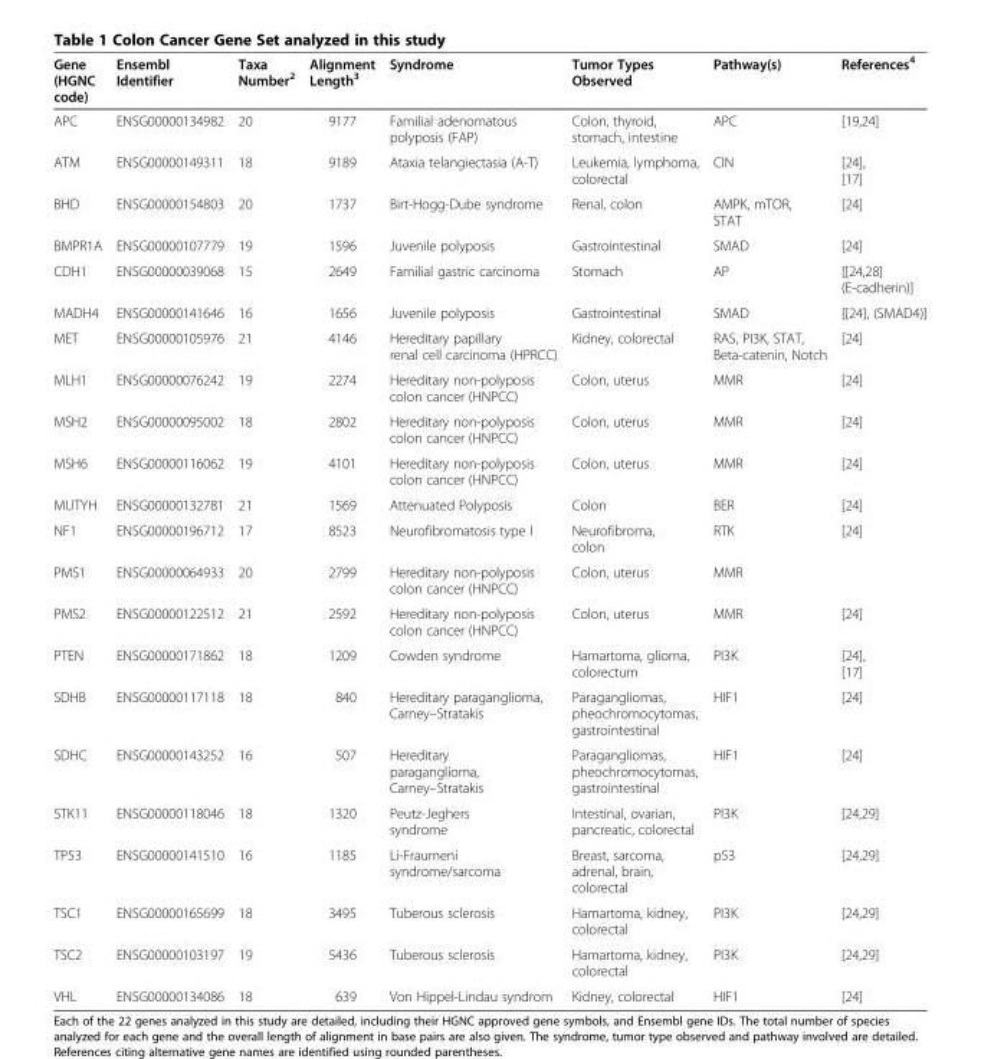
<table><thead><tr><td>Gene (HGNC code)</td><td>Ensembl Identifier</td><td>Taxa Number<sup>2</sup></td><td>Alignment Length<sup>3</sup></td><td>Syndrome</td><td>Tumor Types Observed</td><td>Pathway(s)</td><td>References<sup>4</sup></td></tr></thead><tbody><tr><td>APC</td><td>ENSG00000134982</td><td>20</td><td>9177</td><td>Familial adenomatous polyposis (FAP)</td><td>Colon, thyroid, stomach, intestine</td><td>APC</td><td>[19,24]</td></tr><tr><td>ATM</td><td>ENSG00000149311</td><td>18</td><td>9189</td><td>Ataxia telangiectasia (A-T)</td><td>Leukemia, lymphoma, colorectal</td><td>CIN</td><td>[24], [17]</td></tr><tr><td>BHD</td><td>ENSG00000154803</td><td>20</td><td>1737</td><td>Birt-Hogg-Dube syndrome</td><td>Renal, colon</td><td>AMPK, mTOR, STAT</td><td>[24]</td></tr><tr><td>BMPR1A</td><td>ENSG00000107779</td><td>19</td><td>1596</td><td>Juvenile polyposis</td><td>Gastrointestinal</td><td>SMAD</td><td>[24]</td></tr><tr><td>CDH1</td><td>ENSG00000039068</td><td>15</td><td>2649</td><td>Familial gastric carcinoma</td><td>Stomach</td><td>AP</td><td>[[24,28] (E-cadherin)]</td></tr><tr><td>MADH4</td><td>ENSG00000141646</td><td>16</td><td>1656</td><td>Juvenile polyposis</td><td>Gastrointestinal</td><td>SMAD</td><td>[[24], (SMAD4)]</td></tr><tr><td>MET</td><td>ENSG00000105976</td><td>21</td><td>4146</td><td>Hereditary papillary renal cell carcinoma (HPRCC)</td><td>Kidney, colorectal</td><td>RAS, PI3K, STAT, Beta-catenin, Notch</td><td>[24]</td></tr><tr><td>MLH1</td><td>ENSG00000076242</td><td>19</td><td>2274</td><td>Hereditary non-polyposis colon cancer (HNPCC)</td><td>Colon, uterus</td><td>MMR</td><td>[24]</td></tr><tr><td>MSH2</td><td>ENSG00000095002</td><td>18</td><td>2802</td><td>Hereditary non-polyposis colon cancer (HNPCC)</td><td>Colon, uterus</td><td>MMR</td><td>[24]</td></tr><tr><td>MSH6</td><td>ENSG00000116062</td><td>19</td><td>4101</td><td>Hereditary non-polyposis colon cancer (HNPCC)</td><td>Colon, uterus</td><td>MMR</td><td>[24]</td></tr><tr><td>MUTYH</td><td>ENSG00000132781</td><td>21</td><td>1569</td><td>Attenuated Polyposis</td><td>Colon</td><td>BER</td><td>[24]</td></tr><tr><td>NF1</td><td>ENSG00000196712</td><td>17</td><td>8523</td><td>Neurofibromatosis type I</td><td>Neurofibroma, colon</td><td>RTK</td><td>[24]</td></tr><tr><td>PMS1</td><td>ENSG00000064933</td><td>20</td><td>2799</td><td>Hereditary non-polyposis colon cancer (HNPCC)</td><td>Colon, uterus</td><td>MMR</td><td></td></tr><tr><td>PMS2</td><td>ENSG00000122512</td><td>21</td><td>2592</td><td>Hereditary non-polyposis colon cancer (HNPCC)</td><td>Colon, uterus</td><td>MMR</td><td>[24]</td></tr><tr><td>PTEN</td><td>ENSG00000171862</td><td>18</td><td>1209</td><td>Cowden syndrome</td><td>Hamartoma, glioma, colorectum</td><td>PI3K</td><td>[24], [17]</td></tr><tr><td>SDHB</td><td>ENSG00000117118</td><td>18</td><td>840</td><td>Hereditary paraganglioma, Carney–Stratakis</td><td>Paragangliomas, pheochromocytomas, gastrointestinal</td><td>HIF1</td><td>[24]</td></tr><tr><td>SDHC</td><td>ENSG00000143252</td><td>16</td><td>507</td><td>Hereditary paraganglioma, Carney–Stratakis</td><td>Paragangliomas, pheochromocytomas, gastrointestinal</td><td>HIF1</td><td>[24]</td></tr><tr><td>STK11</td><td>ENSG00000118046</td><td>18</td><td>1320</td><td>Peutz-Jeghers syndrome</td><td>Intestinal, ovarian, pancreatic, colorectal</td><td>PI3K</td><td>[24,29]</td></tr><tr><td>TP53</td><td>ENSG00000141510</td><td>16</td><td>1185</td><td>Li-Fraumeni syndrome/sarcoma</td><td>Breast, sarcoma, adrenal, brain, colorectal</td><td>p53</td><td>[24,29]</td></tr><tr><td>TSC1</td><td>ENSG00000165699</td><td>18</td><td>3495</td><td>Tuberous sclerosis</td><td>Hamartoma, kidney, colorectal</td><td>PI3K</td><td>[24,29]</td></tr><tr><td>TSC2</td><td>ENSG00000103197</td><td>19</td><td>5436</td><td>Tuberous sclerosis</td><td>Hamartoma, kidney, colorectal</td><td>PI3K</td><td>[24,29]</td></tr><tr><td>VHL</td><td>ENSG00000134086</td><td>18</td><td>639</td><td>Von Hippel-Lindau syndrom</td><td>Kidney, colorectal</td><td>HIF1</td><td>[24]</td></tr></tbody></table>